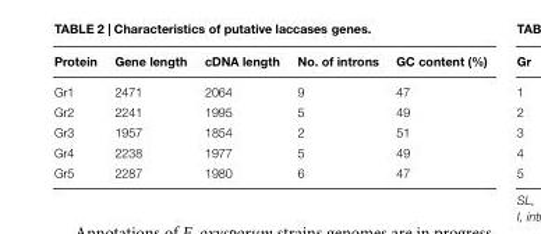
<table><thead><tr><td>Protein</td><td>Gene length</td><td>cDNA length</td><td>No. of introns</td><td>GC content (%)</td></tr></thead><tbody><tr><td>Gr1</td><td>2471</td><td>2064</td><td>9</td><td>47</td></tr><tr><td>Gr2</td><td>2241</td><td>1995</td><td>5</td><td>49</td></tr><tr><td>Gr3</td><td>1957</td><td>1854</td><td>2</td><td>51</td></tr><tr><td>Gr4</td><td>2238</td><td>1977</td><td>5</td><td>49</td></tr><tr><td>Gr5</td><td>2287</td><td>1980</td><td>6</td><td>47</td></tr></tbody></table>